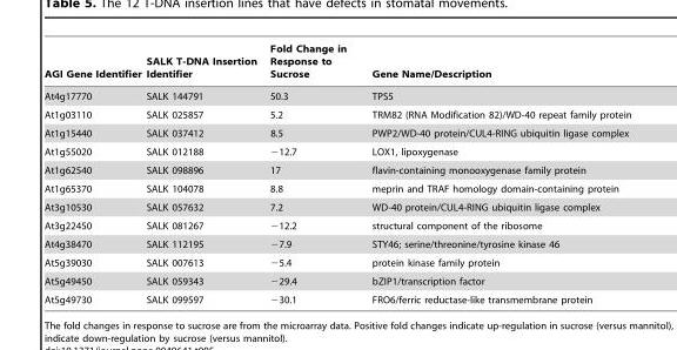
<table><thead><tr><td>AGI Gene Identifier</td><td>SALK T-DNA Insertion Identifier</td><td>Fold Change in Response to Sucrose</td><td>Gene Name/Description</td></tr></thead><tbody><tr><td>At4g17770</td><td>SALK 144791</td><td>50.3</td><td>TPS5</td></tr><tr><td>At1g03110</td><td>SALK 025857</td><td>5.2</td><td>TRM82 (RNA Modification 82)/WD-40 repeat family protein</td></tr><tr><td>At1g15440</td><td>SALK 037412</td><td>8.5</td><td>PWP2/WD-40 protein/CUL4-RING ubiquitin ligase complex</td></tr><tr><td>At1g55020</td><td>SALK 012188</td><td>−12.7</td><td>LOX1, lipoxygenase</td></tr><tr><td>At1g62540</td><td>SALK 098896</td><td>17</td><td>flavin-containing monooxygenase family protein</td></tr><tr><td>At1g65370</td><td>SALK 104078</td><td>8.8</td><td>meprin and TRAF homology domain-containing protein</td></tr><tr><td>At3g10530</td><td>SALK 057632</td><td>7.2</td><td>WD-40 protein/CUL4-RING ubiquitin ligase complex</td></tr><tr><td>At3g22450</td><td>SALK 081267</td><td>−12.2</td><td>structural component of the ribosome</td></tr><tr><td>At4g38470</td><td>SALK 112195</td><td>−7.9</td><td>STY46; serine/threonine/tyrosine kinase 46</td></tr><tr><td>At5g39030</td><td>SALK 007613</td><td>−5.4</td><td>protein kinase family protein</td></tr><tr><td>At5g49450</td><td>SALK 059343</td><td>−29.4</td><td>bZIP1/transcription factor</td></tr><tr><td>At5g49730</td><td>SALK 099597</td><td>−30.1</td><td>FRO6/ferric reductase-like transmembrane protein</td></tr></tbody></table>